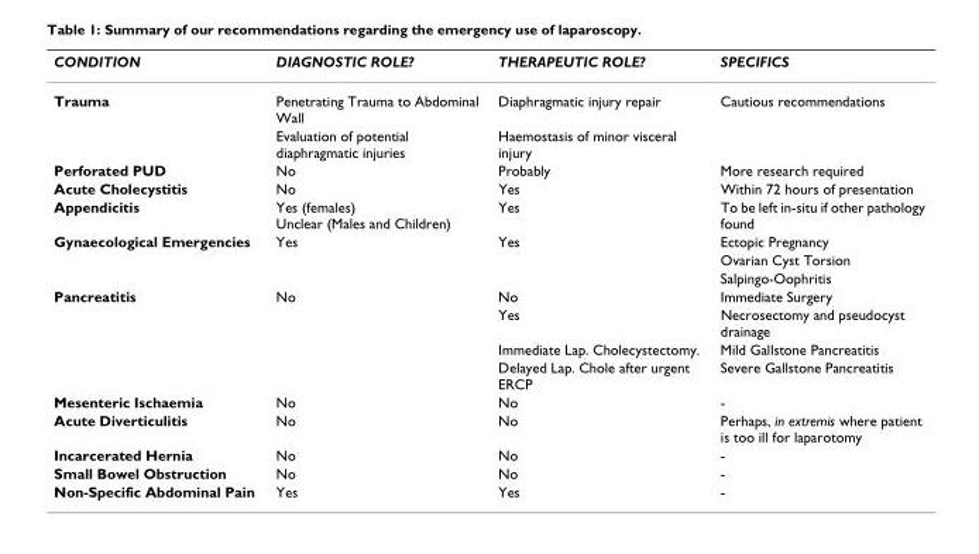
<table><thead><tr><td>CONDITION</td><td>DIAGNOSTIC ROLE?</td><td>THERAPEUTIC ROLE?</td><td>SPECIFICS</td></tr></thead><tbody><tr><td rowspan="2">Trauma</td><td>Penetrating Trauma to Abdominal Wall</td><td>Diaphragmatic injury repair</td><td>Cautious recommendations</td></tr><tr><td>Evaluation of potential diaphragmatic injuries</td><td>Haemostasis of minor visceral injury</td><td></td></tr><tr><td>Perforated PUD</td><td>No</td><td>Probably</td><td>More research required</td></tr><tr><td>Acute Cholecystitis</td><td>No</td><td>Yes</td><td>Within 72 hours of presentation</td></tr><tr><td>Appendicitis</td><td>Yes (females) Unclear (Males and Children)</td><td>Yes</td><td>To be left in-situ if other pathology found</td></tr><tr><td rowspan="3">Gynaecological Emergencies</td><td>Yes</td><td>Yes</td><td>Ectopic Pregnancy</td></tr><tr><td></td><td></td><td>Ovarian Cyst Torsion</td></tr><tr><td></td><td></td><td>Salpingo-Oophritis</td></tr><tr><td rowspan="4">Pancreatitis</td><td>No</td><td>No</td><td>Immediate Surgery</td></tr><tr><td></td><td>Yes</td><td>Necrosectomy and pseudocyst drainage</td></tr><tr><td></td><td>Immediate Lap. Cholecystectomy.</td><td>Mild Gallstone Pancreatitis</td></tr><tr><td></td><td>Delayed Lap. Chole after urgent ERCP</td><td>Severe Gallstone Pancreatitis</td></tr><tr><td>Mesenteric Ischaemia</td><td>No</td><td>No</td><td>-</td></tr><tr><td>Acute Diverticulitis</td><td>No</td><td>No</td><td>Perhaps, in extremis where patient is too ill for laparotomy</td></tr><tr><td>Incarcerated Hernia</td><td>No</td><td>No</td><td>-</td></tr><tr><td>Small Bowel Obstruction</td><td>No</td><td>No</td><td>-</td></tr><tr><td>Non-Specific Abdominal Pain</td><td>Yes</td><td>Yes</td><td>-</td></tr></tbody></table>